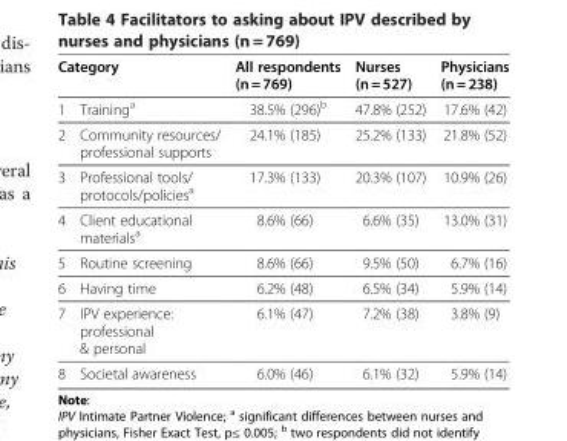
<table><thead><tr><td>Category</td><td>All respondents (n = 769)</td><td>Nurses (n = 527)</td><td>Physicians (n = 238)</td></tr></thead><tbody><tr><td>1 Training<sup>a</sup></td><td>38.5% (296)<sup>b</sup></td><td>47.8% (252)</td><td>17.6% (42)</td></tr><tr><td>2 Community resources/ professional supports</td><td>24.1% (185)</td><td>25.2% (133)</td><td>21.8% (52)</td></tr><tr><td>3 Professional tools/ protocols/policies<sup>a</sup></td><td>17.3% (133)</td><td>20.3% (107)</td><td>10.9% (26)</td></tr><tr><td>4 Client educational materials<sup>a</sup></td><td>8.6% (66)</td><td>6.6% (35)</td><td>13.0% (31)</td></tr><tr><td>5 Routine screening</td><td>8.6% (66)</td><td>9.5% (50)</td><td>6.7% (16)</td></tr><tr><td>6 Having time</td><td>6.2% (48)</td><td>6.5% (34)</td><td>5.9% (14)</td></tr><tr><td>7 IPV experience: professional &amp; personal</td><td>6.1% (47)</td><td>7.2% (38)</td><td>3.8% (9)</td></tr><tr><td>8 Societal awareness</td><td>6.0% (46)</td><td>6.1% (32)</td><td>5.9% (14)</td></tr></tbody></table>